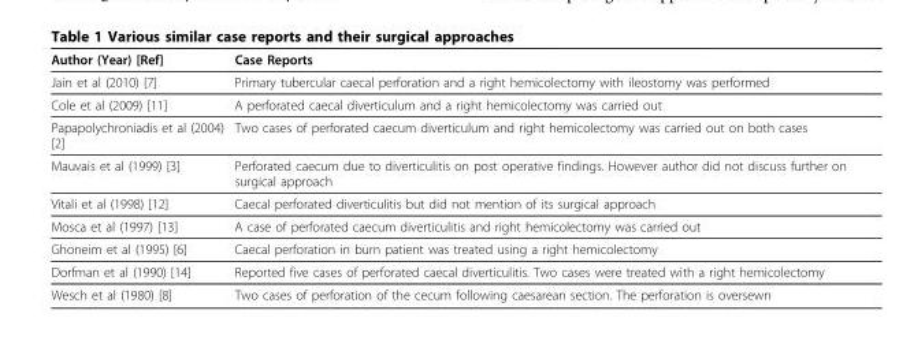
<table><thead><tr><td>Author (Year) [Ref]</td><td>Case Reports</td></tr></thead><tbody><tr><td>Jain et al (2010) [7]</td><td>Primary tubercular caecal perforation and a right hemicolectomy with ileostomy was performed</td></tr><tr><td>Cole et al (2009) [11]</td><td>A perforated caecal diverticulum and a right hemicolectomy was carried out</td></tr><tr><td>Papapolychroniadis et al (2004) [2]</td><td>Two cases of perforated caecum diverticulum and right hemicolectomy was carried out on both cases</td></tr><tr><td>Mauvais et al (1999) [3]</td><td>Perforated caecum due to diverticulitis on post operative findings. However author did not discuss further on surgical approach</td></tr><tr><td>Vitali et al (1998) [12]</td><td>Caecal perforated diverticulitis but did not mention of its surgical approach</td></tr><tr><td>Mosca et al (1997) [13]</td><td>A case of perforated caecum diverticulitis and right hemicolectomy was carried out</td></tr><tr><td>Ghoneim et al (1995) [6]</td><td>Caecal perforation in burn patient was treated using a right hemicolectomy</td></tr><tr><td>Dorfman et al (1990) [14]</td><td>Reported five cases of perforated caecal diverticulitis. Two cases were treated with a right hemicolectomy</td></tr><tr><td>Wesch et al (1980) [8]</td><td>Two cases of perforation of the cecum following caesarean section. The perforation is oversewn</td></tr></tbody></table>